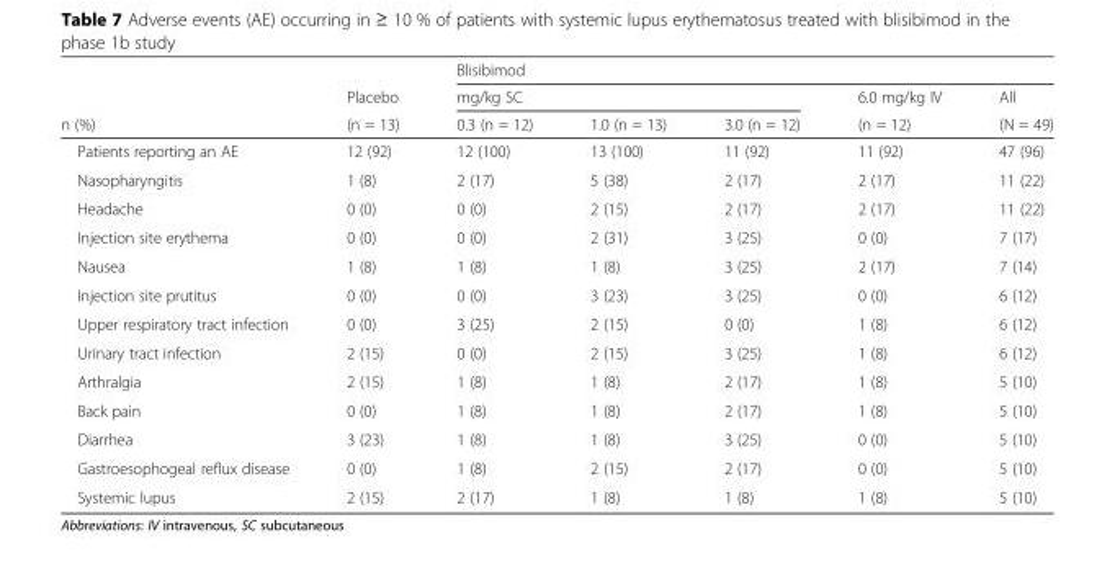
<table><thead><tr><td rowspan="3">n (%)</td><td rowspan="3">Placebo (n = 13)</td><td colspan="5">Blisibimod</td></tr><tr><td colspan="3">mg/kg SC</td><td rowspan="2">6.0 mg/kg IV (n = 12)</td><td rowspan="2">All (N = 49)</td></tr><tr><td>0.3 (n = 12)</td><td>1.0 (n = 13)</td><td>3.0 (n = 12)</td></tr></thead><tbody><tr><td>Patients reporting an AE</td><td>12 (92)</td><td>12 (100)</td><td>13 (100)</td><td>11 (92)</td><td>11 (92)</td><td>47 (96)</td></tr><tr><td>Nasopharyngitis</td><td>1 (8)</td><td>2 (17)</td><td>5 (38)</td><td>2 (17)</td><td>2 (17)</td><td>11 (22)</td></tr><tr><td>Headache</td><td>0 (0)</td><td>0 (0)</td><td>2 (15)</td><td>2 (17)</td><td>2 (17)</td><td>11 (22)</td></tr><tr><td>Injection site erythema</td><td>0 (0)</td><td>0 (0)</td><td>2 (31)</td><td>3 (25)</td><td>0 (0)</td><td>7 (17)</td></tr><tr><td>Nausea</td><td>1 (8)</td><td>1 (8)</td><td>1 (8)</td><td>3 (25)</td><td>2 (17)</td><td>7 (14)</td></tr><tr><td>Injection site prutitus</td><td>0 (0)</td><td>0 (0)</td><td>3 (23)</td><td>3 (25)</td><td>0 (0)</td><td>6 (12)</td></tr><tr><td>Upper respiratory tract infection</td><td>0 (0)</td><td>3 (25)</td><td>2 (15)</td><td>0 (0)</td><td>1 (8)</td><td>6 (12)</td></tr><tr><td>Urinary tract infection</td><td>2 (15)</td><td>0 (0)</td><td>2 (15)</td><td>3 (25)</td><td>1 (8)</td><td>6 (12)</td></tr><tr><td>Arthralgia</td><td>2 (15)</td><td>1 (8)</td><td>1 (8)</td><td>2 (17)</td><td>1 (8)</td><td>5 (10)</td></tr><tr><td>Back pain</td><td>0 (0)</td><td>1 (8)</td><td>1 (8)</td><td>2 (17)</td><td>1 (8)</td><td>5 (10)</td></tr><tr><td>Diarrhea</td><td>3 (23)</td><td>1 (8)</td><td>1 (8)</td><td>3 (25)</td><td>0 (0)</td><td>5 (10)</td></tr><tr><td>Gastroesophogeal reflux disease</td><td>0 (0)</td><td>1 (8)</td><td>2 (15)</td><td>2 (17)</td><td>0 (0)</td><td>5 (10)</td></tr><tr><td>Systemic lupus</td><td>2 (15)</td><td>2 (17)</td><td>1 (8)</td><td>1 (8)</td><td>1 (8)</td><td>5 (10)</td></tr></tbody></table>